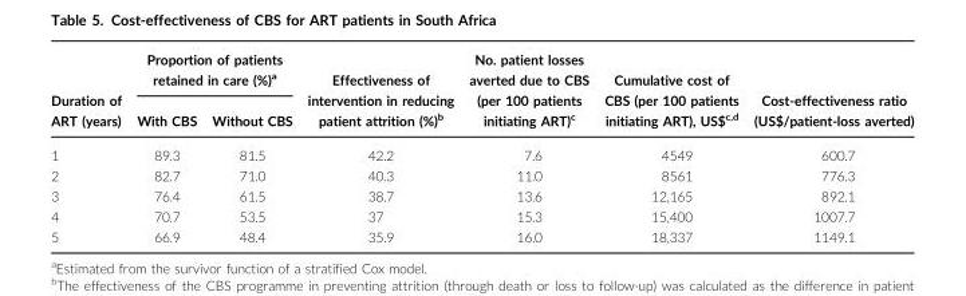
<table><thead><tr><td rowspan="2">Duration of ART (years)</td><td colspan="2">Proportion of patients retained in care (%)<sup>a</sup></td><td rowspan="2">Effectiveness of intervention in reducing patient attrition (%)<sup>b</sup></td><td rowspan="2">No. patient losses averted due to CBS (per 100 patients initiating ART)<sup>c</sup></td><td rowspan="2">Cumulative cost of CBS (per 100 patients initiating ART), US$<sup>c,</sup>d</td><td rowspan="2">Cost-effectiveness ratio (US$/patient-loss averted)</td></tr><tr><td>With CBS</td><td>Without CBS</td></tr></thead><tbody><tr><td>1</td><td>89.3</td><td>81.5</td><td>42.2</td><td>7.6</td><td>4549</td><td>600.7</td></tr><tr><td>2</td><td>82.7</td><td>71.0</td><td>40.3</td><td>11.0</td><td>8561</td><td>776.3</td></tr><tr><td>3</td><td>76.4</td><td>61.5</td><td>38.7</td><td>13.6</td><td>12,165</td><td>892.1</td></tr><tr><td>4</td><td>70.7</td><td>53.5</td><td>37</td><td>15.3</td><td>15,400</td><td>1007.7</td></tr><tr><td>5</td><td>66.9</td><td>48.4</td><td>35.9</td><td>16.0</td><td>18,337</td><td>1149.1</td></tr></tbody></table>